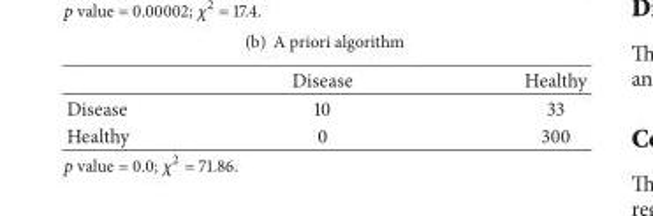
<table><thead><tr><td></td><td>Disease</td><td>Healthy</td></tr></thead><tbody><tr><td>Disease</td><td>10</td><td>33</td></tr><tr><td>Healthy</td><td>0</td><td>300</td></tr></tbody></table>